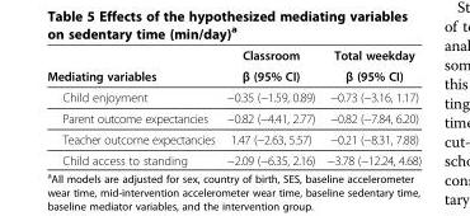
<table><thead><tr><td rowspan="2">Mediating variables</td><td rowspan="2">Classroom β (95% CI)</td><td rowspan="2">Total weekday β (95% CI)</td></tr><tr></tr></thead><tbody><tr><td>Child enjoyment</td><td>−0.35 (−1.59, 0.89)</td><td>−0.73 (−3.16, 1.17)</td></tr><tr><td>Parent outcome expectancies</td><td>−0.82 (−4.41, 2.77)</td><td>−0.82 (−7.84, 6.20)</td></tr><tr><td>Teacher outcome expectancies</td><td>1.47 (−2.63, 5.57)</td><td>−0.21 (−8.31, 7.88)</td></tr><tr><td>Child access to standing</td><td>−2.09 (−6.35, 2.16)</td><td>−3.78 (−12.24, 4.68)</td></tr></tbody></table>